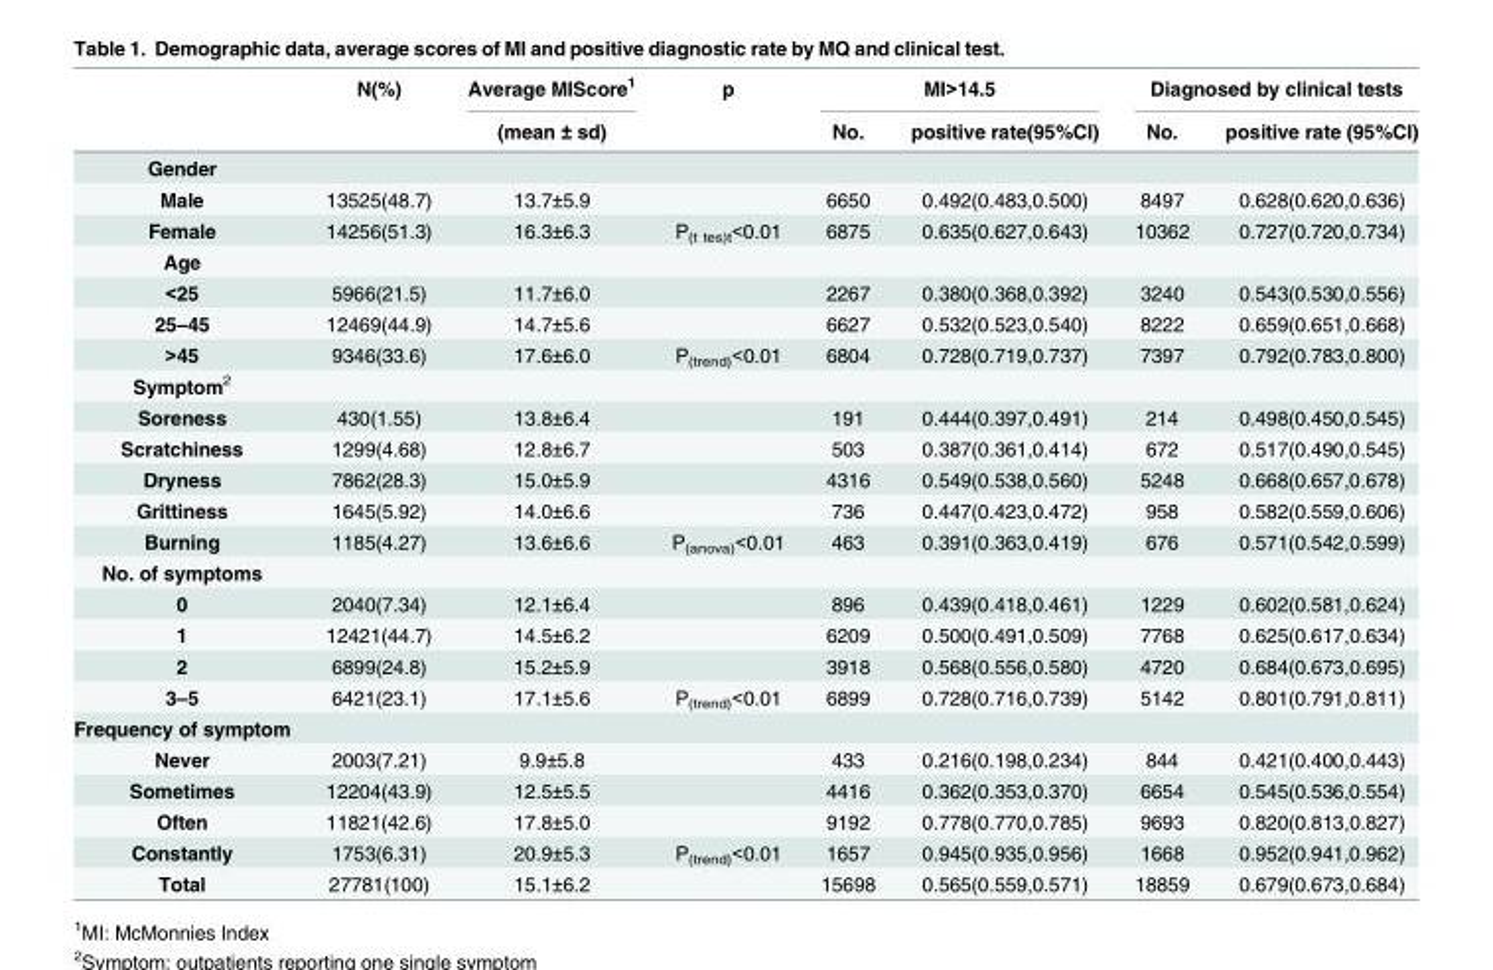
<table><thead><tr><td rowspan="2"></td><td rowspan="2">N(%)</td><td rowspan="2">Average MIScore<sup>1</sup> (mean ± sd)</td><td rowspan="2">p</td><td colspan="2">MI&gt;14.5</td><td colspan="2">Diagnosed by clinical tests</td></tr><tr><td>No.</td><td>positive rate(95%CI)</td><td>No.</td><td>positive rate (95%CI)</td></tr></thead><tbody><tr><td colspan="8">Gender</td></tr><tr><td>Male</td><td>13525(48.7)</td><td>13.7±5.9</td><td></td><td>6650</td><td>0.492(0.483,0.500)</td><td>8497</td><td>0.628(0.620,0.636)</td></tr><tr><td>Female</td><td>14256(51.3)</td><td>16.3±6.3</td><td>P<sub>(t tes)t</sub>&lt;0.01</td><td>6875</td><td>0.635(0.627,0.643)</td><td>10362</td><td>0.727(0.720,0.734)</td></tr><tr><td colspan="8">Age</td></tr><tr><td>&lt;25</td><td>5966(21.5)</td><td>11.7±6.0</td><td></td><td>2267</td><td>0.380(0.368,0.392)</td><td>3240</td><td>0.543(0.530,0.556)</td></tr><tr><td>25–45</td><td>12469(44.9)</td><td>14.7±5.6</td><td></td><td>6627</td><td>0.532(0.523,0.540)</td><td>8222</td><td>0.659(0.651,0.668)</td></tr><tr><td>&gt;45</td><td>9346(33.6)</td><td>17.6±6.0</td><td>P<sub>(trend)</sub>&lt;0.01</td><td>6804</td><td>0.728(0.719,0.737)</td><td>7397</td><td>0.792(0.783,0.800)</td></tr><tr><td colspan="8">Symptom<sup>2</sup></td></tr><tr><td>Soreness</td><td>430(1.55)</td><td>13.8±6.4</td><td></td><td>191</td><td>0.444(0.397,0.491)</td><td>214</td><td>0.498(0.450,0.545)</td></tr><tr><td>Scratchiness</td><td>1299(4.68)</td><td>12.8±6.7</td><td></td><td>503</td><td>0.387(0.361,0.414)</td><td>672</td><td>0.517(0.490,0.545)</td></tr><tr><td>Dryness</td><td>7862(28.3)</td><td>15.0±5.9</td><td></td><td>4316</td><td>0.549(0.538,0.560)</td><td>5248</td><td>0.668(0.657,0.678)</td></tr><tr><td>Grittiness</td><td>1645(5.92)</td><td>14.0±6.6</td><td></td><td>736</td><td>0.447(0.423,0.472)</td><td>958</td><td>0.582(0.559,0.606)</td></tr><tr><td>Burning</td><td>1185(4.27)</td><td>13.6±6.6</td><td>P<sub>(anova)</sub>&lt;0.01</td><td>463</td><td>0.391(0.363,0.419)</td><td>676</td><td>0.571(0.542,0.599)</td></tr><tr><td colspan="8">No. of symptoms</td></tr><tr><td>0</td><td>2040(7.34)</td><td>12.1±6.4</td><td></td><td>896</td><td>0.439(0.418,0.461)</td><td>1229</td><td>0.602(0.581,0.624)</td></tr><tr><td>1</td><td>12421(44.7)</td><td>14.5±6.2</td><td></td><td>6209</td><td>0.500(0.491,0.509)</td><td>7768</td><td>0.625(0.617,0.634)</td></tr><tr><td>2</td><td>6899(24.8)</td><td>15.2±5.9</td><td></td><td>3918</td><td>0.568(0.556,0.580)</td><td>4720</td><td>0.684(0.673,0.695)</td></tr><tr><td>3–5</td><td>6421(23.1)</td><td>17.1±5.6</td><td>P<sub>(trend)</sub>&lt;0.01</td><td>6899</td><td>0.728(0.716,0.739)</td><td>5142</td><td>0.801(0.791,0.811)</td></tr><tr><td colspan="8">Frequency of symptom</td></tr><tr><td>Never</td><td>2003(7.21)</td><td>9.9±5.8</td><td></td><td>433</td><td>0.216(0.198,0.234)</td><td>844</td><td>0.421(0.400,0.443)</td></tr><tr><td>Sometimes</td><td>12204(43.9)</td><td>12.5±5.5</td><td></td><td>4416</td><td>0.362(0.353,0.370)</td><td>6654</td><td>0.545(0.536,0.554)</td></tr><tr><td>Often</td><td>11821(42.6)</td><td>17.8±5.0</td><td></td><td>9192</td><td>0.778(0.770,0.785)</td><td>9693</td><td>0.820(0.813,0.827)</td></tr><tr><td>Constantly</td><td>1753(6.31)</td><td>20.9±5.3</td><td>P<sub>(trend)</sub>&lt;0.01</td><td>1657</td><td>0.945(0.935,0.956)</td><td>1668</td><td>0.952(0.941,0.962)</td></tr><tr><td>Total</td><td>27781(100)</td><td>15.1±6.2</td><td></td><td>15698</td><td>0.565(0.559,0.571)</td><td>18859</td><td>0.679(0.673,0.684)</td></tr></tbody></table>